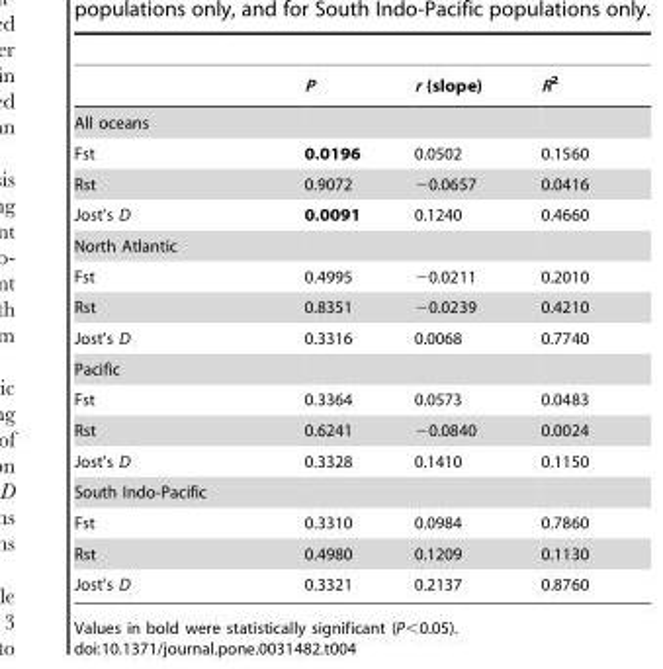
<table><thead><tr><td></td><td>P</td><td>r (slope)</td><td>R<sup>2</sup></td></tr></thead><tbody><tr><td colspan="4">All oceans</td></tr><tr><td>Fst</td><td>0.0196</td><td>0.0502</td><td>0.1560</td></tr><tr><td>Rst</td><td>0.9072</td><td>−0.0657</td><td>0.0416</td></tr><tr><td>Jost’s D</td><td>0.0091</td><td>0.1240</td><td>0.4660</td></tr><tr><td colspan="4">North Atlantic</td></tr><tr><td>Fst</td><td>0.4995</td><td>−0.0211</td><td>0.2010</td></tr><tr><td>Rst</td><td>0.8351</td><td>−0.0239</td><td>0.4210</td></tr><tr><td>Jost’s D</td><td>0.3316</td><td>0.0068</td><td>0.7740</td></tr><tr><td colspan="4">Pacific</td></tr><tr><td>Fst</td><td>0.3364</td><td>0.0573</td><td>0.0483</td></tr><tr><td>Rst</td><td>0.6241</td><td>−0.0840</td><td>0.0024</td></tr><tr><td>Jost’s D</td><td>0.3328</td><td>0.1410</td><td>0.1150</td></tr><tr><td colspan="4">South Indo-Pacific</td></tr><tr><td>Fst</td><td>0.3310</td><td>0.0984</td><td>0.7860</td></tr><tr><td>Rst</td><td>0.4980</td><td>0.1209</td><td>0.1130</td></tr><tr><td>Jost’s D</td><td>0.3321</td><td>0.2137</td><td>0.8760</td></tr></tbody></table>